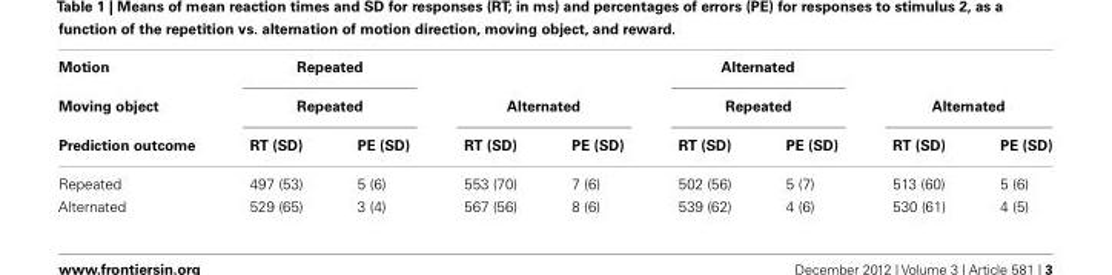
<table><thead><tr><td rowspan="3">Motion Moving object Prediction outcome</td><td rowspan="2" colspan="2">Repeated Repeated</td><td></td><td></td><td rowspan="2" colspan="2">Alternated Repeated</td><td></td><td></td></tr><tr><td colspan="2">Alternated</td><td colspan="2">Alternated</td></tr><tr><td>RT (SD)</td><td>PE (SD)</td><td>RT (SD)</td><td>PE (SD)</td><td>RT (SD)</td><td>PE (SD)</td><td>RT (SD)</td><td>PE (SD)</td></tr></thead><tbody><tr><td>Repeated</td><td>497 (53)</td><td>5 (6)</td><td>553 (70)</td><td>7 (6)</td><td>502 (56)</td><td>5 (7)</td><td>513 (60)</td><td>5 (6)</td></tr><tr><td>Alternated</td><td>529 (65)</td><td>3 (4)</td><td>567 (56)</td><td>8 (6)</td><td>539 (62)</td><td>4 (6)</td><td>530 (61)</td><td>4 (5)</td></tr></tbody></table>